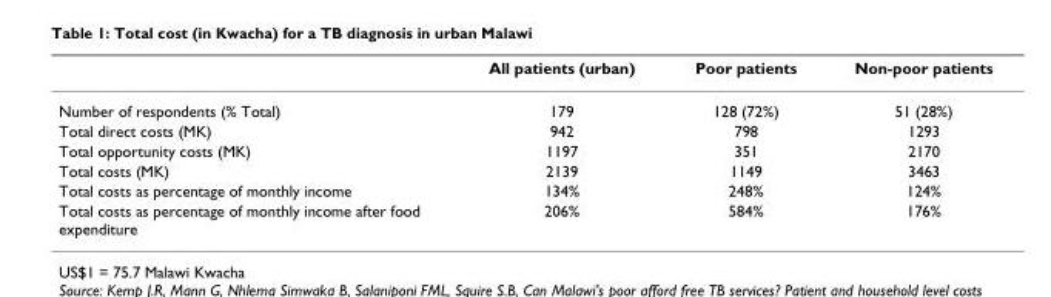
<table><thead><tr><td></td><td>All patients (urban)</td><td>Poor patients</td><td>Non-poor patients</td></tr></thead><tbody><tr><td>Number of respondents (% Total)</td><td>179</td><td>128 (72%)</td><td>51 (28%)</td></tr><tr><td>Total direct costs (MK)</td><td>942</td><td>798</td><td>1293</td></tr><tr><td>Total opportunity costs (MK)</td><td>1197</td><td>351</td><td>2170</td></tr><tr><td>Total costs (MK)</td><td>2139</td><td>1149</td><td>3463</td></tr><tr><td>Total costs as percentage of monthly income</td><td>134%</td><td>248%</td><td>124%</td></tr><tr><td>Total costs as percentage of monthly income after food expenditure</td><td>206%</td><td>584%</td><td>176%</td></tr></tbody></table>